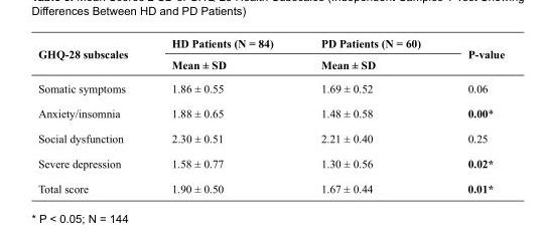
<table><thead><tr><td rowspan="2">GHQ-28 subscales</td><td rowspan="2">HD Patients (N = 84) Mean ± SD</td><td rowspan="2">PD Patients (N = 60) Mean ± SD</td><td rowspan="2">P-value</td></tr><tr></tr></thead><tbody><tr><td>Somatic symptoms</td><td>1.86 ± 0.55</td><td>1.69 ± 0.52</td><td>0.06</td></tr><tr><td>Anxiety/insomnia</td><td>1.88 ± 0.65</td><td>1.48 ± 0.58</td><td>0.00*</td></tr><tr><td>Social dysfunction</td><td>2.30 ± 0.51</td><td>2.21 ± 0.40</td><td>0.25</td></tr><tr><td>Severe depression</td><td>1.58 ± 0.77</td><td>1.30 ± 0.56</td><td>0.02*</td></tr><tr><td>Total score</td><td>1.90 ± 0.50</td><td>1.67 ± 0.44</td><td>0.01*</td></tr></tbody></table>